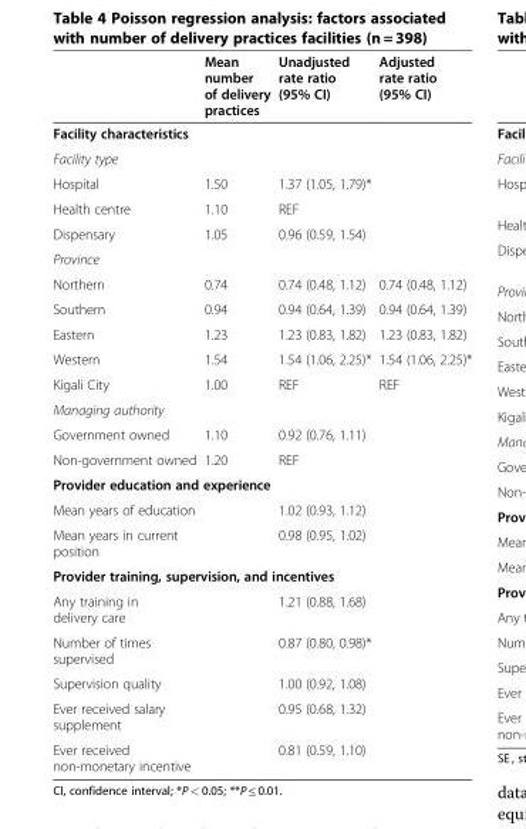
<table><thead><tr><td></td><td>Mean number of delivery practices</td><td>Unadjusted rate ratio (95% CI)</td><td>Adjusted rate ratio (95% CI)</td></tr></thead><tbody><tr><td colspan="4">Facility characteristics</td></tr><tr><td colspan="4">Facility type</td></tr><tr><td>Hospital</td><td>1.50</td><td>1.37 (1.05, 1.79)*</td><td></td></tr><tr><td>Health centre</td><td>1.10</td><td>REF</td><td></td></tr><tr><td>Dispensary</td><td>1.05</td><td>0.96 (0.59, 1.54)</td><td></td></tr><tr><td colspan="4">Province</td></tr><tr><td>Northern</td><td>0.74</td><td>0.74 (0.48, 1.12)</td><td>0.74 (0.48, 1.12)</td></tr><tr><td>Southern</td><td>0.94</td><td>0.94 (0.64, 1.39)</td><td>0.94 (0.64, 1.39)</td></tr><tr><td>Eastern</td><td>1.23</td><td>1.23 (0.83, 1.82)</td><td>1.23 (0.83, 1.82)</td></tr><tr><td>Western</td><td>1.54</td><td>1.54 (1.06, 2.25)*</td><td>1.54 (1.06, 2.25)*</td></tr><tr><td>Kigali City</td><td>1.00</td><td>REF</td><td>REF</td></tr><tr><td colspan="4">Managing authority</td></tr><tr><td>Government owned</td><td>1.10</td><td>0.92 (0.76, 1.11)</td><td></td></tr><tr><td>Non-government owned</td><td>1.20</td><td>REF</td><td></td></tr><tr><td colspan="4">Provider education and experience</td></tr><tr><td>Mean years of education</td><td></td><td>1.02 (0.93, 1.12)</td><td></td></tr><tr><td>Mean years in current position</td><td></td><td>0.98 (0.95, 1.02)</td><td></td></tr><tr><td colspan="4">Provider training, supervision, and incentives</td></tr><tr><td>Any training in delivery care</td><td></td><td>1.21 (0.88, 1.68)</td><td></td></tr><tr><td>Number of times supervised</td><td></td><td>0.87 (0.80, 0.98)*</td><td></td></tr><tr><td>Supervision quality</td><td></td><td>1.00 (0.92, 1.08)</td><td></td></tr><tr><td>Ever received salary supplement</td><td></td><td>0.95 (0.68, 1.32)</td><td></td></tr><tr><td>Ever received non-monetary incentive</td><td></td><td>0.81 (0.59, 1.10)</td><td></td></tr></tbody></table>